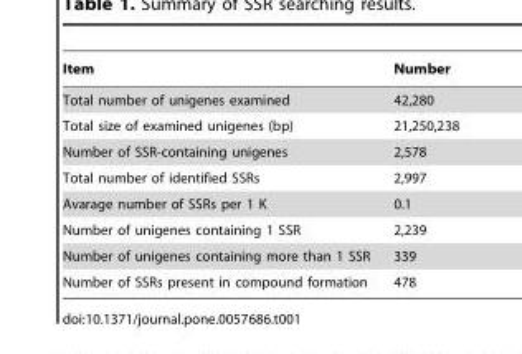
<table><thead><tr><td>Item</td><td>Number</td></tr></thead><tbody><tr><td>Total number of unigenes examined</td><td>42,280</td></tr><tr><td>Total size of examined unigenes (bp)</td><td>21,250,238</td></tr><tr><td>Number of SSR-containing unigenes</td><td>2,578</td></tr><tr><td>Total number of identified SSRs</td><td>2,997</td></tr><tr><td>Avarage number of SSRs per 1 K</td><td>0.1</td></tr><tr><td>Number of unigenes containing 1 SSR</td><td>2,239</td></tr><tr><td>Number of unigenes containing more than 1 SSR</td><td>339</td></tr><tr><td>Number of SSRs present in compound formation</td><td>478</td></tr></tbody></table>